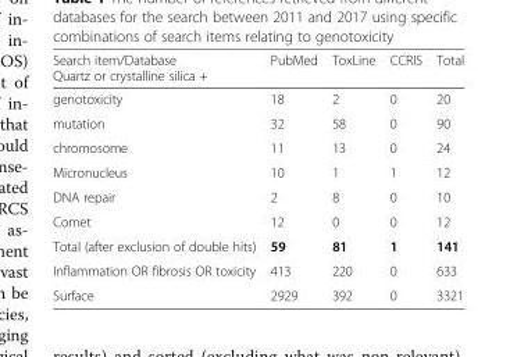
<table><thead><tr><td>Search item/Database Quartz or crystalline silica +</td><td>PubMed</td><td>ToxLine</td><td>CCRIS</td><td>Total</td></tr></thead><tbody><tr><td>genotoxicity</td><td>18</td><td>2</td><td>0</td><td>20</td></tr><tr><td>mutation</td><td>32</td><td>58</td><td>0</td><td>90</td></tr><tr><td>chromosome</td><td>11</td><td>13</td><td>0</td><td>24</td></tr><tr><td>Micronucleus</td><td>10</td><td>1</td><td>1</td><td>12</td></tr><tr><td>DNA repair</td><td>2</td><td>8</td><td>0</td><td>10</td></tr><tr><td>Comet</td><td>12</td><td>0</td><td>0</td><td>12</td></tr><tr><td>Total (after exclusion of double hits)</td><td>59</td><td>81</td><td>1</td><td>141</td></tr><tr><td>Inflammation OR fibrosis OR toxicity</td><td>413</td><td>220</td><td>0</td><td>633</td></tr><tr><td>Surface</td><td>2929</td><td>392</td><td>0</td><td>3321</td></tr></tbody></table>